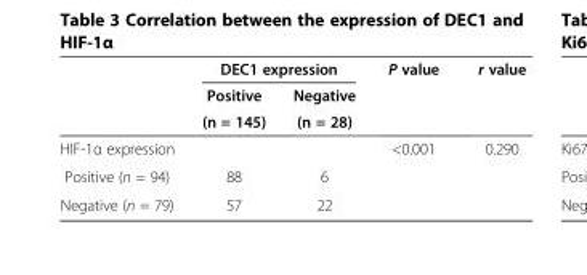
<table><thead><tr><td rowspan="3"></td><td colspan="2">DEC1 expression</td><td rowspan="3">P value</td><td rowspan="3">r value</td></tr><tr><td rowspan="2">Positive (n = 145)</td><td rowspan="2">Negative (n = 28)</td></tr><tr></tr></thead><tbody><tr><td>HIF-1α expression</td><td></td><td></td><td>&lt;0.001</td><td>0.290</td></tr><tr><td>Positive (n = 94)</td><td>88</td><td>6</td><td></td><td></td></tr><tr><td>Negative (n = 79)</td><td>57</td><td>22</td><td></td><td></td></tr></tbody></table>